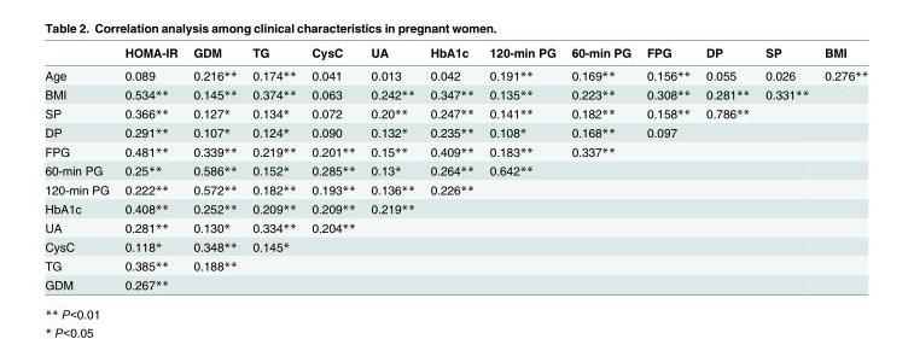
<table><thead><tr><td></td><td>HOMA-IR</td><td>GDM</td><td>TG</td><td>CysC</td><td>UA</td><td>HbA1c</td><td>120-min PG</td><td>60-min PG</td><td>FPG</td><td>DP</td><td>SP</td><td>BMI</td></tr></thead><tbody><tr><td>Age</td><td>0.089</td><td>0.216**</td><td>0.174**</td><td>0.041</td><td>0.013</td><td>0.042</td><td>0.191**</td><td>0.169**</td><td>0.156**</td><td>0.055</td><td>0.026</td><td>0.276**</td></tr><tr><td>BMI</td><td>0.534**</td><td>0.145**</td><td>0.374**</td><td>0.063</td><td>0.242**</td><td>0.347**</td><td>0.135**</td><td>0.223**</td><td>0.308**</td><td>0.281**</td><td>0.331**</td><td></td></tr><tr><td>SP</td><td>0.366**</td><td>0.127*</td><td>0.134*</td><td>0.072</td><td>0.20**</td><td>0.247**</td><td>0.141**</td><td>0.182**</td><td>0.158**</td><td>0.786**</td><td></td><td></td></tr><tr><td>DP</td><td>0.291**</td><td>0.107*</td><td>0.124*</td><td>0.090</td><td>0.132*</td><td>0.235**</td><td>0.108*</td><td>0.168**</td><td>0.097</td><td></td><td></td><td></td></tr><tr><td>FPG</td><td>0.481**</td><td>0.339**</td><td>0.219**</td><td>0.201**</td><td>0.15**</td><td>0.409**</td><td>0.183**</td><td>0.337**</td><td></td><td></td><td></td><td></td></tr><tr><td>60-min PG</td><td>0.25**</td><td>0.586**</td><td>0.152*</td><td>0.285**</td><td>0.13*</td><td>0.264**</td><td>0.642**</td><td></td><td></td><td></td><td></td><td></td></tr><tr><td>120-min PG</td><td>0.222**</td><td>0.572**</td><td>0.182**</td><td>0.193**</td><td>0.136**</td><td>0.226**</td><td></td><td></td><td></td><td></td><td></td><td></td></tr><tr><td>HbA1c</td><td>0.408**</td><td>0.252**</td><td>0.209**</td><td>0.209**</td><td>0.219**</td><td></td><td></td><td></td><td></td><td></td><td></td><td></td></tr><tr><td>UA</td><td>0.281**</td><td>0.130*</td><td>0.334**</td><td>0.204**</td><td></td><td></td><td></td><td></td><td></td><td></td><td></td><td></td></tr><tr><td>CysC</td><td>0.118*</td><td>0.348**</td><td>0.145*</td><td></td><td></td><td></td><td></td><td></td><td></td><td></td><td></td><td></td></tr><tr><td>TG</td><td>0.385**</td><td>0.188**</td><td></td><td></td><td></td><td></td><td></td><td></td><td></td><td></td><td></td><td></td></tr><tr><td>GDM</td><td>0.267**</td><td></td><td></td><td></td><td></td><td></td><td></td><td></td><td></td><td></td><td></td><td></td></tr></tbody></table>